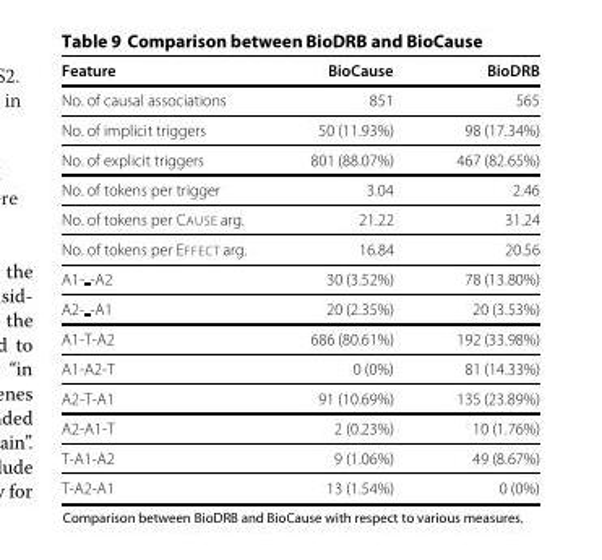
<table><thead><tr><td>Feature</td><td>BioCause</td><td>BioDRB</td></tr></thead><tbody><tr><td>No. of causal associations</td><td>851</td><td>565</td></tr><tr><td>No. of implicit triggers</td><td>50 (11.93%)</td><td>98 (17.34%)</td></tr><tr><td>No. of explicit triggers</td><td>801 (88.07%)</td><td>467 (82.65%)</td></tr><tr><td>No. of tokens per trigger</td><td>3.04</td><td>2.46</td></tr><tr><td>No. of tokens per CAUSE arg.</td><td>21.22</td><td>31.24</td></tr><tr><td>No. of tokens per EFFECT arg.</td><td>16.84</td><td>20.56</td></tr><tr><td>A1- -A2</td><td>30 (3.52%)</td><td>78 (13.80%)</td></tr><tr><td>A2- -A1</td><td>20 (2.35%)</td><td>20 (3.53%)</td></tr><tr><td>A1-T-A2</td><td>686 (80.61%)</td><td>192 (33.98%)</td></tr><tr><td>A1-A2-T</td><td>0 (0%)</td><td>81 (14.33%)</td></tr><tr><td>A2-T-A1</td><td>91 (10.69%)</td><td>135 (23.89%)</td></tr><tr><td>A2-A1-T</td><td>2 (0.23%)</td><td>10 (1.76%)</td></tr><tr><td>T-A1-A2</td><td>9 (1.06%)</td><td>49 (8.67%)</td></tr><tr><td>T-A2-A1</td><td>13 (1.54%)</td><td>0 (0%)</td></tr></tbody></table>